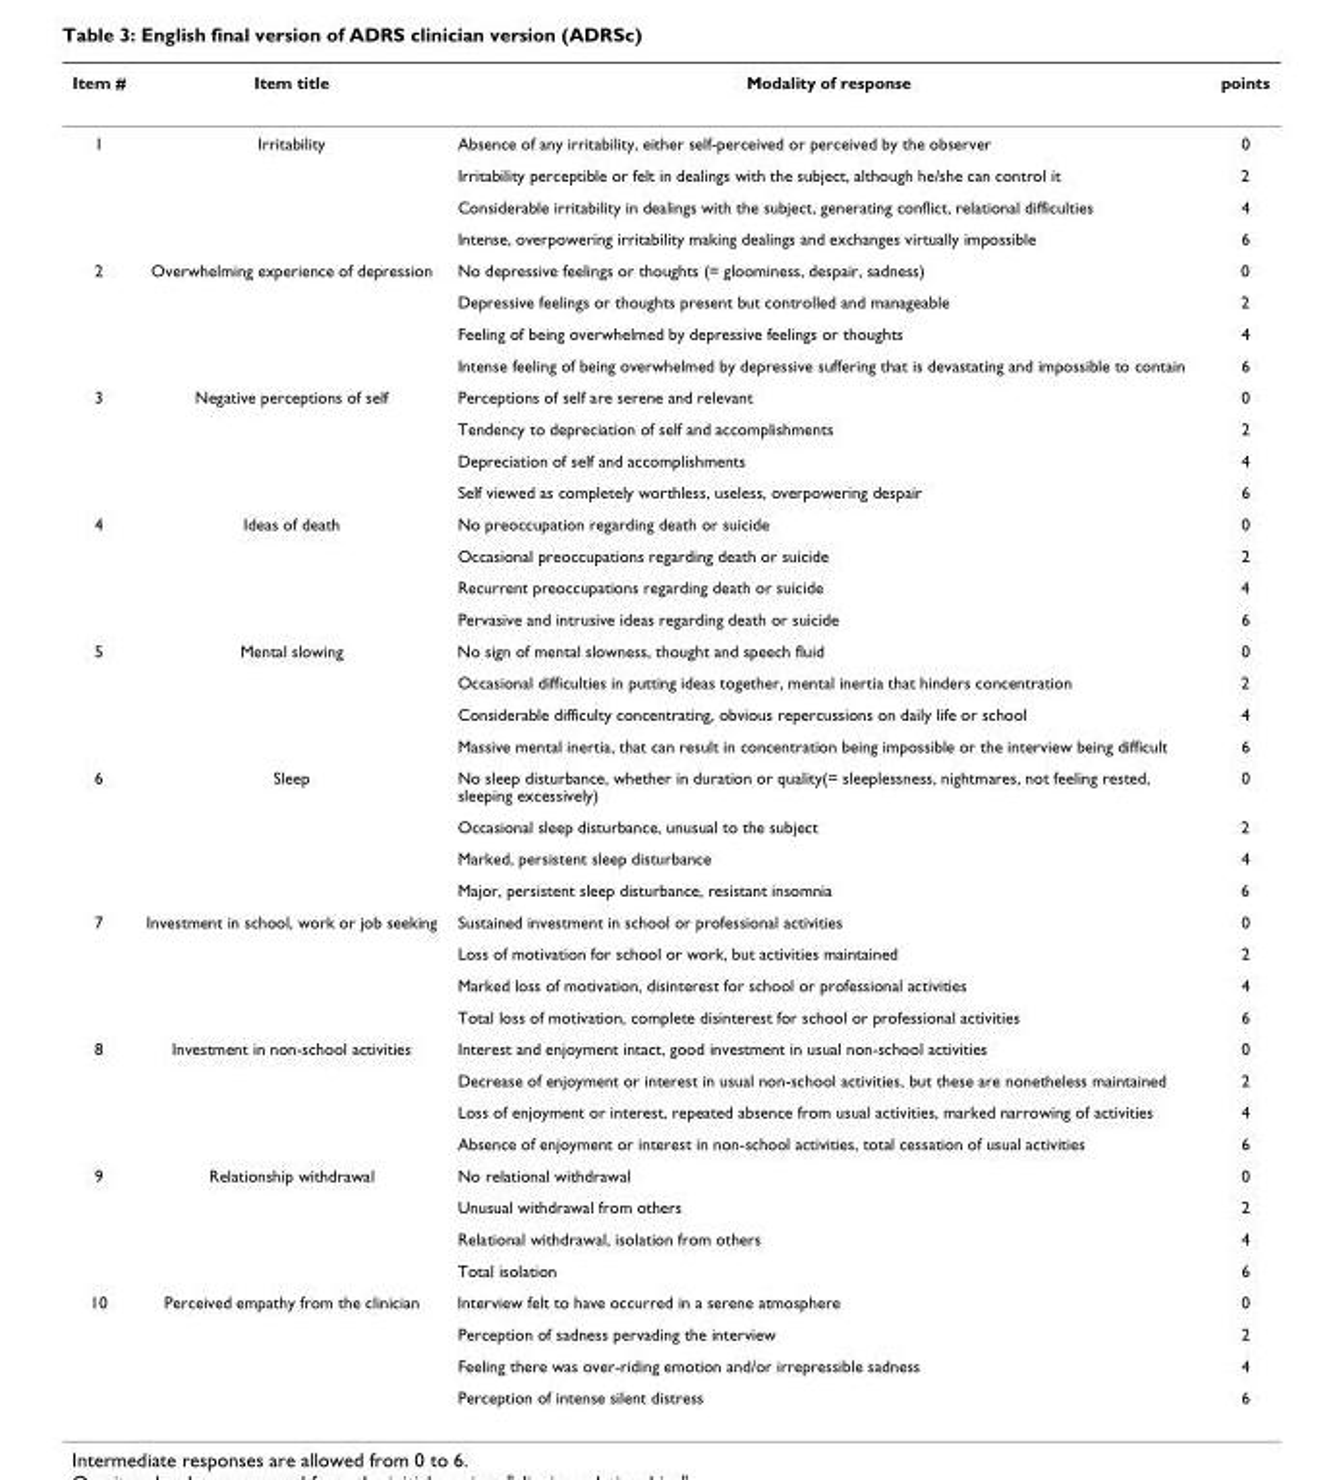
<table><thead><tr><td>Item #</td><td>Item title</td><td>Modality of response</td><td>points</td></tr></thead><tbody><tr><td rowspan="4">1</td><td>Irritability</td><td>Absence of any irritability, either self-perceived or perceived by the observer</td><td>0</td></tr><tr><td></td><td>Irritability perceptible or felt in dealings with the subject, although he/she can control it</td><td>2</td></tr><tr><td></td><td>Considerable irritability in dealings with the subject, generating conflict, relational difficulties</td><td>4</td></tr><tr><td></td><td>Intense, overpowering irritability making dealings and exchanges virtually impossible</td><td>6</td></tr><tr><td rowspan="4">2</td><td>Overwhelming experience of depression</td><td>No depressive feelings or thoughts (= gloominess, despair, sadness)</td><td>0</td></tr><tr><td></td><td>Depressive feelings or thoughts present but controlled and manageable</td><td>2</td></tr><tr><td></td><td>Feeling of being overwhelmed by depressive feelings or thoughts</td><td>4</td></tr><tr><td></td><td>Intense feeling of being overwhelmed by depressive suffering that is devastating and impossible to contain</td><td>6</td></tr><tr><td rowspan="4">3</td><td>Negative perceptions of self</td><td>Perceptions of self are serene and relevant</td><td>0</td></tr><tr><td></td><td>Tendency to depreciation of self and accomplishments</td><td>2</td></tr><tr><td></td><td>Depreciation of self and accomplishments</td><td>4</td></tr><tr><td></td><td>Self viewed as completely worthless, useless, overpowering despair</td><td>6</td></tr><tr><td rowspan="4">4</td><td>Ideas of death</td><td>No preoccupation regarding death or suicide</td><td>0</td></tr><tr><td></td><td>Occasional preoccupations regarding death or suicide</td><td>2</td></tr><tr><td></td><td>Recurrent preoccupations regarding death or suicide</td><td>4</td></tr><tr><td></td><td>Pervasive and intrusive ideas regarding death or suicide</td><td>6</td></tr><tr><td rowspan="4">5</td><td>Mental slowing</td><td>No sign of mental slowness, thought and speech fluid</td><td>0</td></tr><tr><td></td><td>Occasional difficulties in putting ideas together, mental inertia that hinders concentration</td><td>2</td></tr><tr><td></td><td>Considerable difficulty concentrating, obvious repercussions on daily life or school</td><td>4</td></tr><tr><td></td><td>Massive mental inertia, that can result in concentration being impossible or the interview being difficult</td><td>6</td></tr><tr><td rowspan="4">6</td><td>Sleep</td><td>No sleep disturbance, whether in duration or quality(= sleeplessness, nightmares, not feeling rested, sleeping excessively)</td><td>0</td></tr><tr><td></td><td>Occasional sleep disturbance, unusual to the subject</td><td>2</td></tr><tr><td></td><td>Marked, persistent sleep disturbance</td><td>4</td></tr><tr><td></td><td>Major, persistent sleep disturbance, resistant insomnia</td><td>6</td></tr><tr><td rowspan="4">7</td><td>Investment in school, work or job seeking</td><td>Sustained investment in school or professional activities</td><td>0</td></tr><tr><td></td><td>Loss of motivation for school or work, but activities maintained</td><td>2</td></tr><tr><td></td><td>Marked loss of motivation, disinterest for school or professional activities</td><td>4</td></tr><tr><td></td><td>Total loss of motivation, complete disinterest for school or professional activities</td><td>6</td></tr><tr><td rowspan="4">8</td><td>Investment in non-school activities</td><td>Interest and enjoyment intact, good investment in usual non-school activities</td><td>0</td></tr><tr><td></td><td>Decrease of enjoyment or interest in usual non-school activities, but these are nonetheless maintained</td><td>2</td></tr><tr><td></td><td>Loss of enjoyment or interest, repeated absence from usual activities, marked narrowing of activities</td><td>4</td></tr><tr><td></td><td>Absence of enjoyment or interest in non-school activities, total cessation of usual activities</td><td>6</td></tr><tr><td rowspan="4">9</td><td>Relationship withdrawal</td><td>No relational withdrawal</td><td>0</td></tr><tr><td></td><td>Unusual withdrawal from others</td><td>2</td></tr><tr><td></td><td>Relational withdrawal, isolation from others</td><td>4</td></tr><tr><td></td><td>Total isolation</td><td>6</td></tr><tr><td rowspan="4">10</td><td>Perceived empathy from the clinician</td><td>Interview felt to have occurred in a serene atmosphere</td><td>0</td></tr><tr><td></td><td>Perception of sadness pervading the interview</td><td>2</td></tr><tr><td></td><td>Feeling there was over-riding emotion and/or irrepressible sadness</td><td>4</td></tr><tr><td></td><td>Perception of intense silent distress</td><td>6</td></tr></tbody></table>